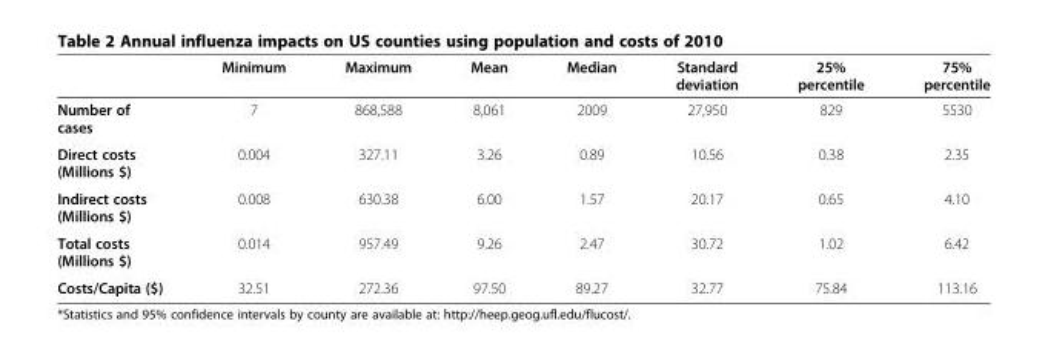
<table><thead><tr><td></td><td>Minimum</td><td>Maximum</td><td>Mean</td><td>Median</td><td>Standard deviation</td><td>25% percentile</td><td>75% percentile</td></tr></thead><tbody><tr><td>Number of cases</td><td>7</td><td>868,588</td><td>8,061</td><td>2009</td><td>27,950</td><td>829</td><td>5530</td></tr><tr><td>Direct costs (Millions $)</td><td>0.004</td><td>327.11</td><td>3.26</td><td>0.89</td><td>10.56</td><td>0.38</td><td>2.35</td></tr><tr><td>Indirect costs (Millions $)</td><td>0.008</td><td>630.38</td><td>6.00</td><td>1.57</td><td>20.17</td><td>0.65</td><td>4.10</td></tr><tr><td>Total costs (Millions $)</td><td>0.014</td><td>957.49</td><td>9.26</td><td>2.47</td><td>30.72</td><td>1.02</td><td>6.42</td></tr><tr><td>Costs/Capita ($)</td><td>32.51</td><td>272.36</td><td>97.50</td><td>89.27</td><td>32.77</td><td>75.84</td><td>113.16</td></tr></tbody></table>